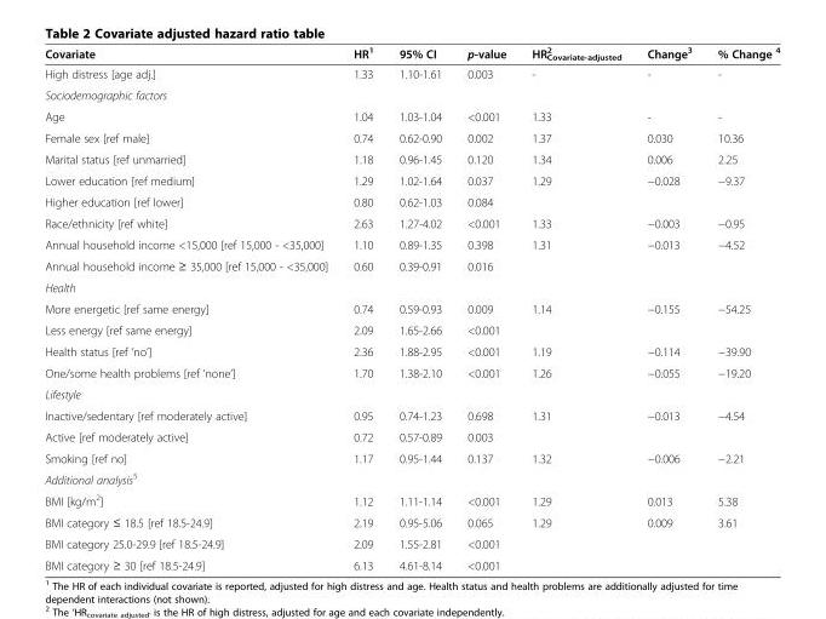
<table><thead><tr><td>Covariate</td><td>HR<sup>1</sup></td><td>95% CI</td><td>p-value</td><td>HR<sub>Covariate-adjusted</sub> <sup>2</sup></td><td>Change<sup>3</sup></td><td>% Change <sup>4</sup></td></tr></thead><tbody><tr><td>High distress [age adj.]</td><td>1.33</td><td>1.10-1.61</td><td>0.003</td><td>-</td><td>-</td><td>-</td></tr><tr><td colspan="7">Sociodemographic factors</td></tr><tr><td>Age</td><td>1.04</td><td>1.03-1.04</td><td>&lt;0.001</td><td>1.33</td><td>-</td><td>-</td></tr><tr><td>Female sex [ref male]</td><td>0.74</td><td>0.62-0.90</td><td>0.002</td><td>1.37</td><td>0.030</td><td>10.36</td></tr><tr><td>Marital status [ref unmarried]</td><td>1.18</td><td>0.96-1.45</td><td>0.120</td><td>1.34</td><td>0.006</td><td>2.25</td></tr><tr><td>Lower education [ref medium]</td><td>1.29</td><td>1.02-1.64</td><td>0.037</td><td>1.29</td><td>−0.028</td><td>−9.37</td></tr><tr><td>Higher education [ref lower]</td><td>0.80</td><td>0.62-1.03</td><td>0.084</td><td></td><td></td><td></td></tr><tr><td>Race/ethnicity [ref white]</td><td>2.63</td><td>1.27-4.02</td><td>&lt;0.001</td><td>1.33</td><td>−0.003</td><td>−0.95</td></tr><tr><td>Annual household income &lt;15,000 [ref 15,000 - &lt;35,000]</td><td>1.10</td><td>0.89-1.35</td><td>0.398</td><td>1.31</td><td>−0.013</td><td>−4.52</td></tr><tr><td>Annual household income ≥ 35,000 [ref 15,000 - &lt;35,000]</td><td>0.60</td><td>0.39-0.91</td><td>0.016</td><td></td><td></td><td></td></tr><tr><td colspan="7">Health</td></tr><tr><td>More energetic [ref same energy]</td><td>0.74</td><td>0.59-0.93</td><td>0.009</td><td>1.14</td><td>−0.155</td><td>−54.25</td></tr><tr><td>Less energy [ref same energy]</td><td>2.09</td><td>1.65-2.66</td><td>&lt;0.001</td><td></td><td></td><td></td></tr><tr><td>Health status [ref ‘no’]</td><td>2.36</td><td>1.88-2.95</td><td>&lt;0.001</td><td>1.19</td><td>−0.114</td><td>−39.90</td></tr><tr><td>One/some health problems [ref ‘none’]</td><td>1.70</td><td>1.38-2.10</td><td>&lt;0.001</td><td>1.26</td><td>−0.055</td><td>−19.20</td></tr><tr><td colspan="7">Lifestyle</td></tr><tr><td>Inactive/sedentary [ref moderately active]</td><td>0.95</td><td>0.74-1.23</td><td>0.698</td><td>1.31</td><td>−0.013</td><td>−4.54</td></tr><tr><td>Active [ref moderately active]</td><td>0.72</td><td>0.57-0.89</td><td>0.003</td><td></td><td></td><td></td></tr><tr><td>Smoking [ref no]</td><td>1.17</td><td>0.95-1.44</td><td>0.137</td><td>1.32</td><td>−0.006</td><td>−2.21</td></tr><tr><td colspan="7">Additional analysis<sup>5</sup></td></tr><tr><td>BMI [kg/m<sup>2</sup>]</td><td>1.12</td><td>1.11-1.14</td><td>&lt;0.001</td><td>1.29</td><td>0.013</td><td>5.38</td></tr><tr><td>BMI category ≤ 18.5 [ref 18.5-24.9]</td><td>2.19</td><td>0.95-5.06</td><td>0.065</td><td>1.29</td><td>0.009</td><td>3.61</td></tr><tr><td>BMI category 25.0-29.9 [ref 18.5-24.9]</td><td>2.09</td><td>1.55-2.81</td><td>&lt;0.001</td><td></td><td></td><td></td></tr><tr><td>BMI category ≥ 30 [ref 18.5-24.9]</td><td>6.13</td><td>4.61-8.14</td><td>&lt;0.001</td><td></td><td></td><td></td></tr></tbody></table>